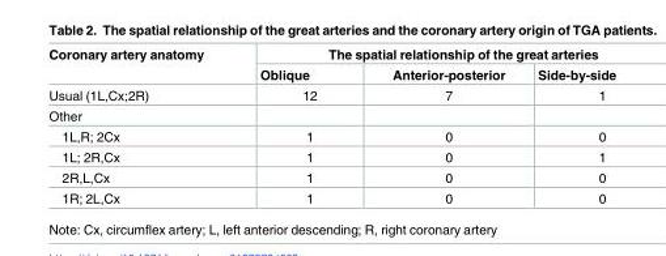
<table><thead><tr><td rowspan="2">Coronary artery anatomy</td><td colspan="3">The spatial relationship of the great arteries</td></tr><tr><td>Oblique</td><td>Anterior-posterior</td><td>Side-by-side</td></tr></thead><tbody><tr><td>Usual (1L,Cx;2R)</td><td>12</td><td>7</td><td>1</td></tr><tr><td colspan="4">Other</td></tr><tr><td>1L,R; 2Cx</td><td>1</td><td>0</td><td>0</td></tr><tr><td>1L; 2R,Cx</td><td>1</td><td>0</td><td>1</td></tr><tr><td>2R,L,Cx</td><td>1</td><td>0</td><td>0</td></tr><tr><td>1R; 2L,Cx</td><td>1</td><td>0</td><td>0</td></tr></tbody></table>